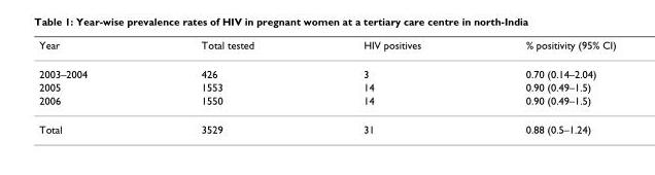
<table><thead><tr><td>Year</td><td>Total tested</td><td>HIV positives</td><td>% positivity (95% CI)</td></tr></thead><tbody><tr><td>2003–2004</td><td>426</td><td>3</td><td>0.70 (0.14–2.04)</td></tr><tr><td>2005</td><td>1553</td><td>14</td><td>0.90 (0.49–1.5)</td></tr><tr><td>2006</td><td>1550</td><td>14</td><td>0.90 (0.49–1.5)</td></tr><tr><td>Total</td><td>3529</td><td>31</td><td>0.88 (0.5–1.24)</td></tr></tbody></table>